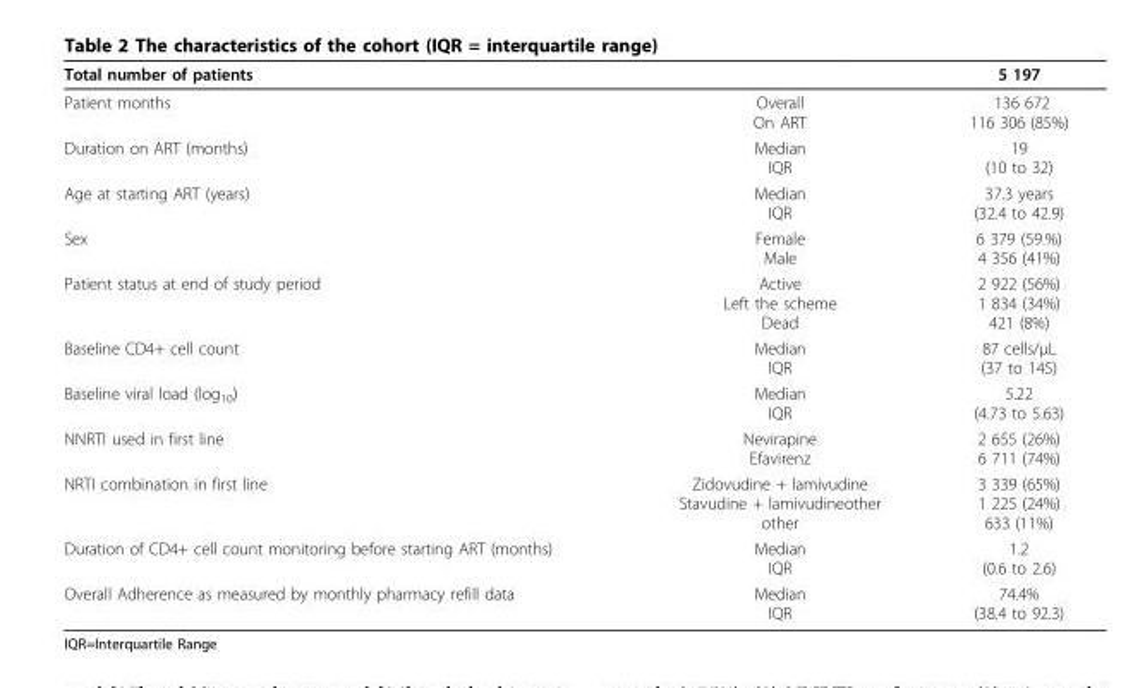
<table><thead><tr><td>Total number of patients</td><td></td><td>5 197</td></tr></thead><tbody><tr><td>Patient months</td><td>Overall On ART</td><td>136 672 116 306 (85%)</td></tr><tr><td>Duration on ART (months)</td><td>Median IQR</td><td>19 (10 to 32)</td></tr><tr><td>Age at starting ART (years)</td><td>Median IQR</td><td>37.3 years (32.4 to 42.9)</td></tr><tr><td>Sex</td><td>Female Male</td><td>6 379 (59.%) 4 356 (41%)</td></tr><tr><td>Patient status at end of study period</td><td>Active Left the scheme Dead</td><td>2 922 (56%) 1 834 (34%) 421 (8%)</td></tr><tr><td>Baseline CD4+ cell count</td><td>Median IQR</td><td>87 cells/μL (37 to 145)</td></tr><tr><td>Baseline viral load (log<sub>10</sub>)</td><td>Median IQR</td><td>5.22 (4.73 to 5.63)</td></tr><tr><td>NNRTI used in first line</td><td>Nevirapine Efavirenz</td><td>2 655 (26%) 6 711 (74%)</td></tr><tr><td>NRTI combination in first line</td><td>Zidovudine + lamivudine Stavudine + lamivudineother other</td><td>3 339 (65%) 1 225 (24%) 633 (11%)</td></tr><tr><td>Duration of CD4+ cell count monitoring before starting ART (months)</td><td>Median IQR</td><td>1.2 (0.6 to 2.6)</td></tr><tr><td>Overall Adherence as measured by monthly pharmacy refill data</td><td>Median IQR</td><td>74.4% (38.4 to 92.3)</td></tr></tbody></table>